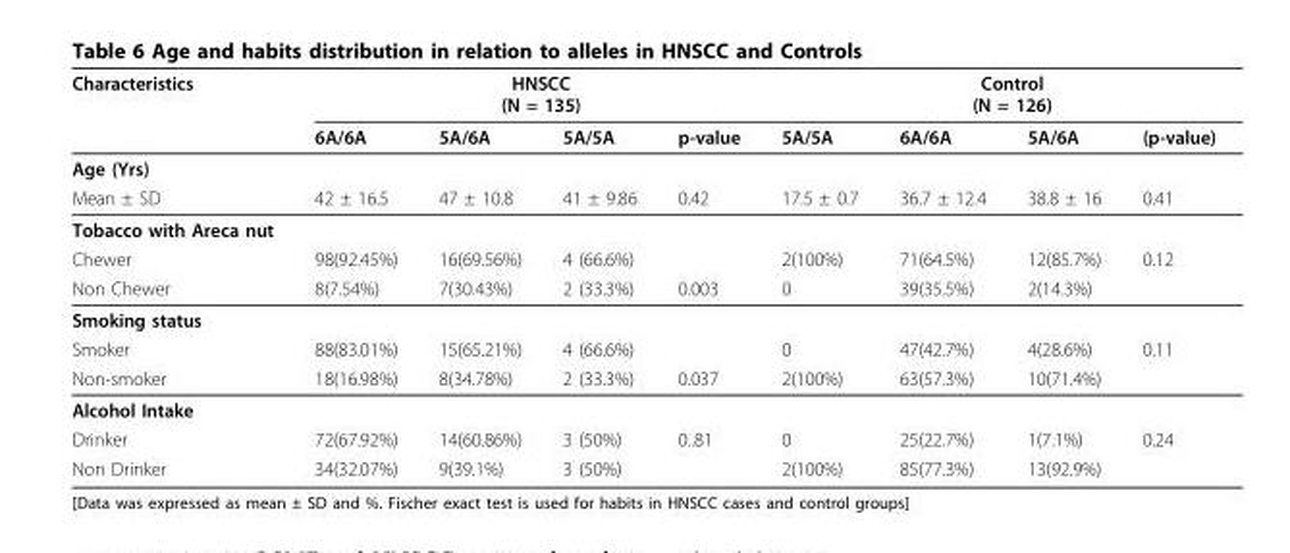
<table><thead><tr><td rowspan="2">Characteristics</td><td colspan="4">HNSCC (N = 135)</td><td colspan="4">Control (N = 126)</td></tr><tr><td>6A/6A</td><td>5A/6A</td><td>5A/5A</td><td>p-value</td><td>5A/5A</td><td>6A/6A</td><td>5A/6A</td><td>(p-value)</td></tr></thead><tbody><tr><td colspan="9">Age (Yrs)</td></tr><tr><td>Mean ± SD</td><td>42 ± 16.5</td><td>47 ± 10.8</td><td>41 ± 9.86</td><td>0.42</td><td>17.5 ± 0.7</td><td>36.7 ± 12.4</td><td>38.8 ± 16</td><td>0.41</td></tr><tr><td colspan="9">Tobacco with Areca nut</td></tr><tr><td>Chewer</td><td>98(92.45%)</td><td>16(69.56%)</td><td>4 (66.6%)</td><td></td><td>2(100%)</td><td>71(64.5%)</td><td>12(85.7%)</td><td>0.12</td></tr><tr><td>Non Chewer</td><td>8(7.54%)</td><td>7(30.43%)</td><td>2 (33.3%)</td><td>0.003</td><td>0</td><td>39(35.5%)</td><td>2(14.3%)</td><td></td></tr><tr><td colspan="9">Smoking status</td></tr><tr><td>Smoker</td><td>88(83.01%)</td><td>15(65.21%)</td><td>4 (66.6%)</td><td></td><td>0</td><td>47(42.7%)</td><td>4(28.6%)</td><td>0.11</td></tr><tr><td>Non-smoker</td><td>18(16.98%)</td><td>8(34.78%)</td><td>2 (33.3%)</td><td>0.037</td><td>2(100%)</td><td>63(57.3%)</td><td>10(71.4%)</td><td></td></tr><tr><td colspan="9">Alcohol Intake</td></tr><tr><td>Drinker</td><td>72(67.92%)</td><td>14(60.86%)</td><td>3 (50%)</td><td>0..81</td><td>0</td><td>25(22.7%)</td><td>1(7.1%)</td><td>0.24</td></tr><tr><td>Non Drinker</td><td>34(32.07%)</td><td>9(39.1%)</td><td>3 (50%)</td><td></td><td>2(100%)</td><td>85(77.3%)</td><td>13(92.9%)</td><td></td></tr></tbody></table>